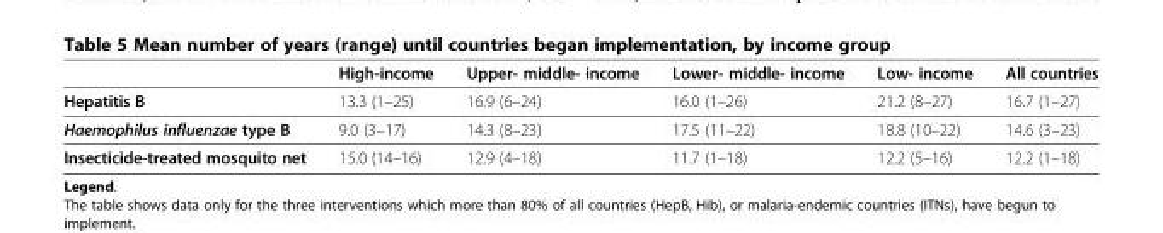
<table><thead><tr><td></td><td>High-income</td><td>Upper- middle- income</td><td>Lower- middle- income</td><td>Low- income</td><td>All countries</td></tr></thead><tbody><tr><td>Hepatitis B</td><td>13.3 (1–25)</td><td>16.9 (6–24)</td><td>16.0 (1–26)</td><td>21.2 (8–27)</td><td>16.7 (1–27)</td></tr><tr><td>Haemophilus influenzae type B</td><td>9.0 (3–17)</td><td>14.3 (8–23)</td><td>17.5 (11–22)</td><td>18.8 (10–22)</td><td>14.6 (3–23)</td></tr><tr><td>Insecticide-treated mosquito net</td><td>15.0 (14–16)</td><td>12.9 (4–18)</td><td>11.7 (1–18)</td><td>12.2 (5–16)</td><td>12.2 (1–18)</td></tr></tbody></table>